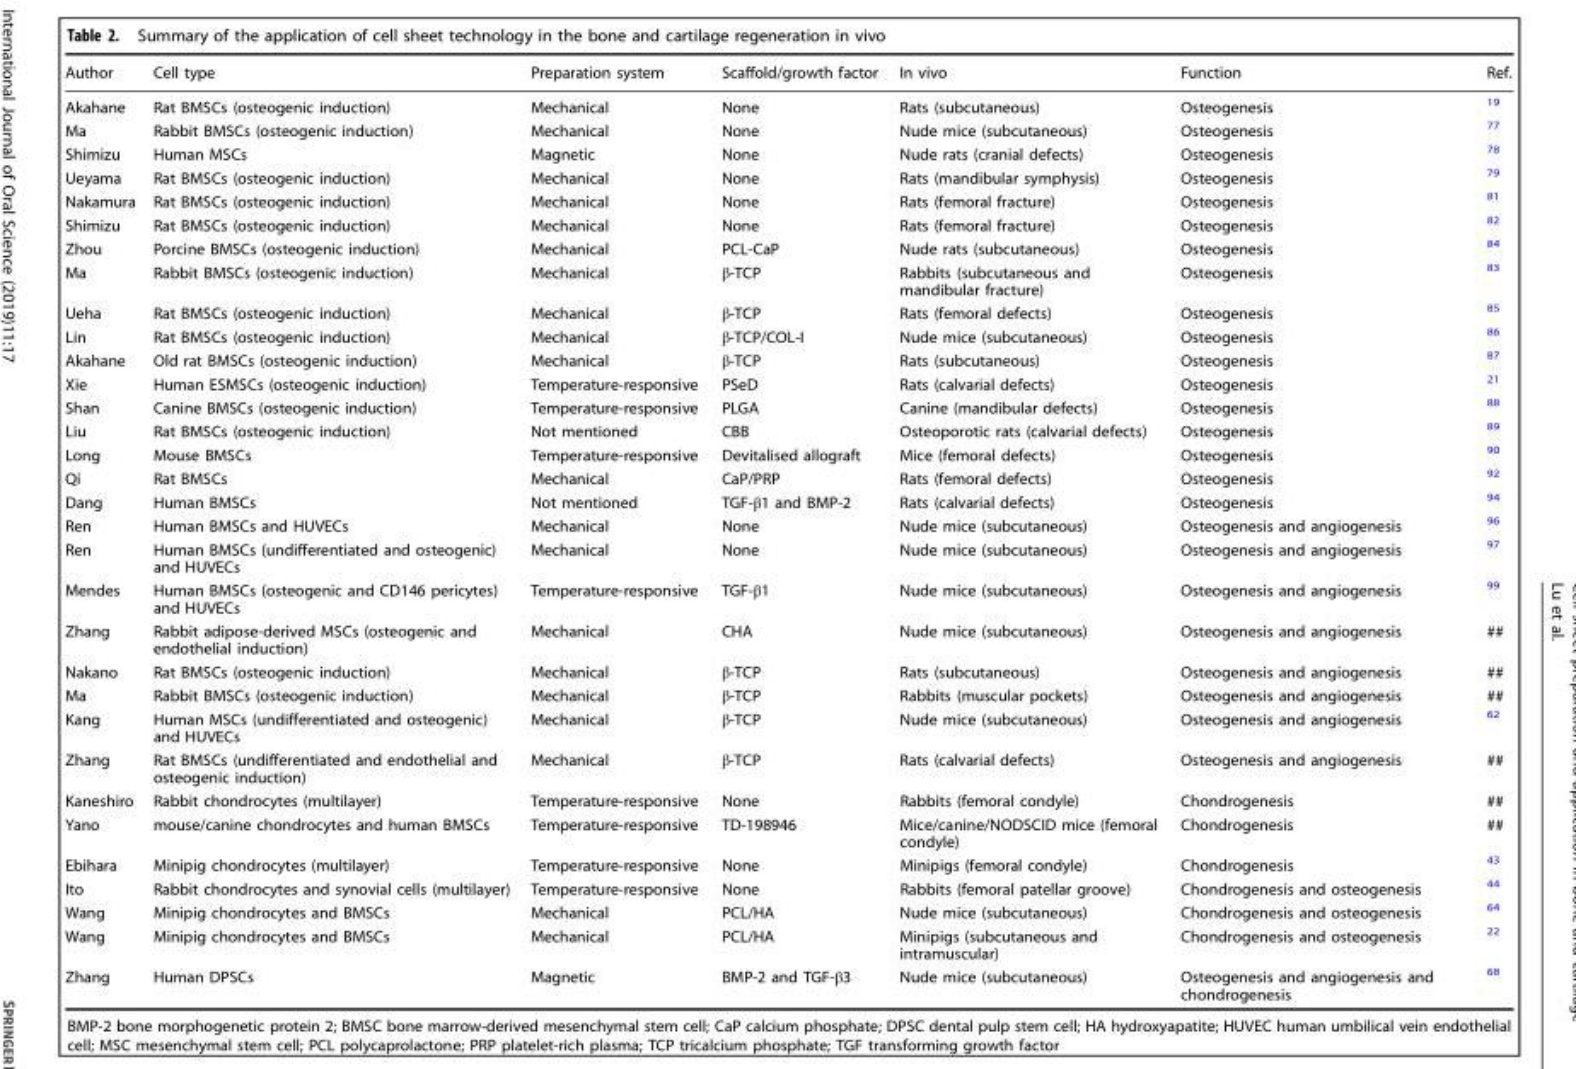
<table><thead><tr><td>Author</td><td>Cell type</td><td>Preparation system</td><td>Scaffold/growth factor</td><td>In vivo</td><td>Function</td><td>Ref.</td></tr></thead><tbody><tr><td>Akahane</td><td>Rat BMSCs (osteogenic induction)</td><td>Mechanical</td><td>None</td><td>Rats (subcutaneous)</td><td>Osteogenesis</td><td><sup>19</sup></td></tr><tr><td>Ma</td><td>Rabbit BMSCs (osteogenic induction)</td><td>Mechanical</td><td>None</td><td>Nude mice (subcutaneous)</td><td>Osteogenesis</td><td><sup>77</sup></td></tr><tr><td>Shimizu</td><td>Human MSCs</td><td>Magnetic</td><td>None</td><td>Nude rats (cranial defects)</td><td>Osteogenesis</td><td><sup>78</sup></td></tr><tr><td>Ueyama</td><td>Rat BMSCs (osteogenic induction)</td><td>Mechanical</td><td>None</td><td>Rats (mandibular symphysis)</td><td>Osteogenesis</td><td><sup>79</sup></td></tr><tr><td>Nakamura</td><td>Rat BMSCs (osteogenic induction)</td><td>Mechanical</td><td>None</td><td>Rats (femoral fracture)</td><td>Osteogenesis</td><td><sup>81</sup></td></tr><tr><td>Shimizu</td><td>Rat BMSCs (osteogenic induction)</td><td>Mechanical</td><td>None</td><td>Rats (femoral fracture)</td><td>Osteogenesis</td><td><sup>82</sup></td></tr><tr><td>Zhou</td><td>Porcine BMSCs (osteogenic induction)</td><td>Mechanical</td><td>PCL-CaP</td><td>Nude rats (subcutaneous)</td><td>Osteogenesis</td><td><sup>84</sup></td></tr><tr><td>Ma</td><td>Rabbit BMSCs (osteogenic induction)</td><td>Mechanical</td><td>β-TCP</td><td>Rabbits (subcutaneous and mandibular fracture)</td><td>Osteogenesis</td><td><sup>83</sup></td></tr><tr><td>Ueha</td><td>Rat BMSCs (osteogenic induction)</td><td>Mechanical</td><td>β-TCP</td><td>Rats (femoral defects)</td><td>Osteogenesis</td><td><sup>85</sup></td></tr><tr><td>Lin</td><td>Rat BMSCs (osteogenic induction)</td><td>Mechanical</td><td>β-TCP/COL-I</td><td>Nude mice (subcutaneous)</td><td>Osteogenesis</td><td><sup>86</sup></td></tr><tr><td>Akahane</td><td>Old rat BMSCs (osteogenic induction)</td><td>Mechanical</td><td>β-TCP</td><td>Rats (subcutaneous)</td><td>Osteogenesis</td><td><sup>87</sup></td></tr><tr><td>Xie</td><td>Human ESMSCs (osteogenic induction)</td><td>Temperature-responsive</td><td>PSeD</td><td>Rats (calvarial defects)</td><td>Osteogenesis</td><td><sup>21</sup></td></tr><tr><td>Shan</td><td>Canine BMSCs (osteogenic induction)</td><td>Temperature-responsive</td><td>PLGA</td><td>Canine (mandibular defects)</td><td>Osteogenesis</td><td><sup>88</sup></td></tr><tr><td>Liu</td><td>Rat BMSCs (osteogenic induction)</td><td>Not mentioned</td><td>CBB</td><td>Osteoporotic rats (calvarial defects)</td><td>Osteogenesis</td><td><sup>89</sup></td></tr><tr><td>Long</td><td>Mouse BMSCs</td><td>Temperature-responsive</td><td>Devitalised allograft</td><td>Mice (femoral defects)</td><td>Osteogenesis</td><td><sup>90</sup></td></tr><tr><td>Qi</td><td>Rat BMSCs</td><td>Mechanical</td><td>CaP/PRP</td><td>Rats (femoral defects)</td><td>Osteogenesis</td><td><sup>92</sup></td></tr><tr><td>Dang</td><td>Human BMSCs</td><td>Not mentioned</td><td>TGF-β1 and BMP-2</td><td>Rats (calvarial defects)</td><td>Osteogenesis</td><td><sup>94</sup></td></tr><tr><td>Ren</td><td>Human BMSCs and HUVECs</td><td>Mechanical</td><td>None</td><td>Nude mice (subcutaneous)</td><td>Osteogenesis and angiogenesis</td><td><sup>96</sup></td></tr><tr><td>Ren</td><td>Human BMSCs (undifferentiated and osteogenic) and HUVECs</td><td>Mechanical</td><td>None</td><td>Nude mice (subcutaneous)</td><td>Osteogenesis and angiogenesis</td><td><sup>97</sup></td></tr><tr><td>Mendes</td><td>Human BMSCs (osteogenic and CD146 pericytes) and HUVECs</td><td>Temperature-responsive</td><td>TGF-β1</td><td>Nude mice (subcutaneous)</td><td>Osteogenesis and angiogenesis</td><td><sup>99</sup></td></tr><tr><td>Zhang</td><td>Rabbit adipose-derived MSCs (osteogenic and endothelial induction)</td><td>Mechanical</td><td>CHA</td><td>Nude mice (subcutaneous)</td><td>Osteogenesis and angiogenesis</td><td>##</td></tr><tr><td>Nakano</td><td>Rat BMSCs (osteogenic induction)</td><td>Mechanical</td><td>β-TCP</td><td>Rats (subcutaneous)</td><td>Osteogenesis and angiogenesis</td><td>##</td></tr><tr><td>Ma</td><td>Rabbit BMSCs (osteogenic induction)</td><td>Mechanical</td><td>β-TCP</td><td>Rabbits (muscular pockets)</td><td>Osteogenesis and angiogenesis</td><td>##</td></tr><tr><td>Kang</td><td>Human MSCs (undifferentiated and osteogenic) and HUVECs</td><td>Mechanical</td><td>β-TCP</td><td>Nude mice (subcutaneous)</td><td>Osteogenesis and angiogenesis</td><td><sup>62</sup></td></tr><tr><td>Zhang</td><td>Rat BMSCs (undifferentiated and endothelial and osteogenic induction)</td><td>Mechanical</td><td>β-TCP</td><td>Rats (calvarial defects)</td><td>Osteogenesis and angiogenesis</td><td>##</td></tr><tr><td>Kaneshiro</td><td>Rabbit chondrocytes (multilayer)</td><td>Temperature-responsive</td><td>None</td><td>Rabbits (femoral condyle)</td><td>Chondrogenesis</td><td>##</td></tr><tr><td>Yano</td><td>mouse/canine chondrocytes and human BMSCs</td><td>Temperature-responsive</td><td>TD-198946</td><td>Mice/canine/NODSCID mice (femoral condyle)</td><td>Chondrogenesis</td><td>##</td></tr><tr><td>Ebihara</td><td>Minipig chondrocytes (multilayer)</td><td>Temperature-responsive</td><td>None</td><td>Minipigs (femoral condyle)</td><td>Chondrogenesis</td><td><sup>43</sup></td></tr><tr><td>Ito</td><td>Rabbit chondrocytes and synovial cells (multilayer)</td><td>Temperature-responsive</td><td>None</td><td>Rabbits (femoral patellar groove)</td><td>Chondrogenesis and osteogenesis</td><td><sup>44</sup></td></tr><tr><td>Wang</td><td>Minipig chondrocytes and BMSCs</td><td>Mechanical</td><td>PCL/HA</td><td>Nude mice (subcutaneous)</td><td>Chondrogenesis and osteogenesis</td><td><sup>64</sup></td></tr><tr><td>Wang</td><td>Minipig chondrocytes and BMSCs</td><td>Mechanical</td><td>PCL/HA</td><td>Minipigs (subcutaneous and intramuscular)</td><td>Chondrogenesis and osteogenesis</td><td><sup>22</sup></td></tr><tr><td>Zhang</td><td>Human DPSCs</td><td>Magnetic</td><td>BMP-2 and TGF-β3</td><td>Nude mice (subcutaneous)</td><td>Osteogenesis and angiogenesis and chondrogenesis</td><td><sup>68</sup></td></tr></tbody></table>